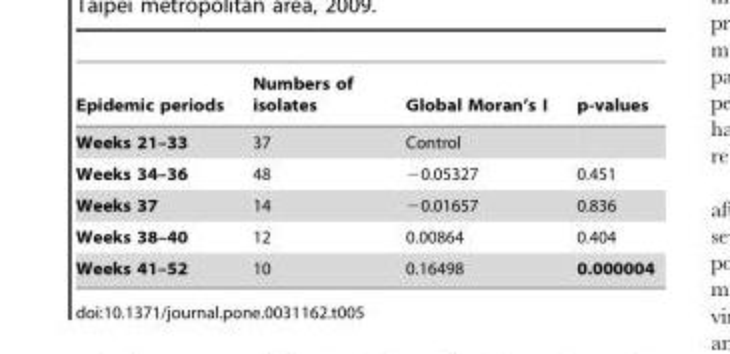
<table><thead><tr><td>Epidemic periods</td><td>Numbers of isolates</td><td>Global Moran’s I</td><td>p-values</td></tr></thead><tbody><tr><td>Weeks 21–33</td><td>37</td><td>Control</td><td></td></tr><tr><td>Weeks 34–36</td><td>48</td><td>−0.05327</td><td>0.451</td></tr><tr><td>Weeks 37</td><td>14</td><td>−0.01657</td><td>0.836</td></tr><tr><td>Weeks 38–40</td><td>12</td><td>0.00864</td><td>0.404</td></tr><tr><td>Weeks 41–52</td><td>10</td><td>0.16498</td><td>0.000004</td></tr></tbody></table>